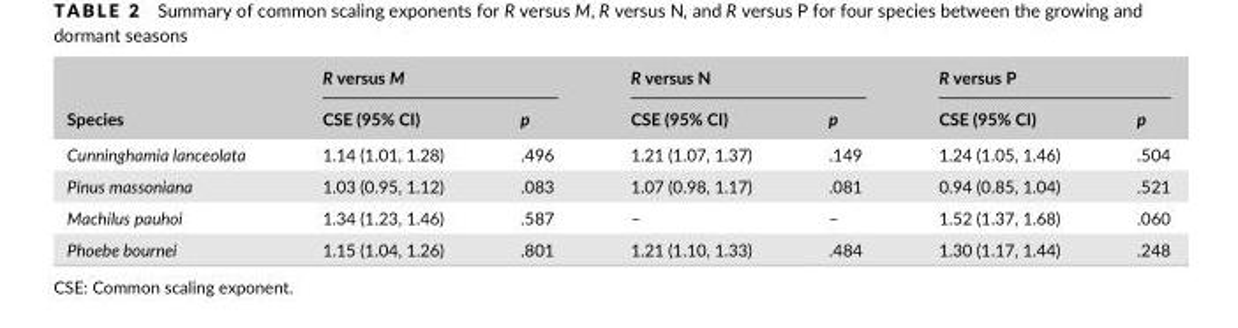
<table><thead><tr><td rowspan="2">Species</td><td colspan="2">R versus M</td><td colspan="2">R versus N</td><td colspan="2">R versus P</td></tr><tr><td>CSE (95% CI)</td><td>p</td><td>CSE (95% CI)</td><td>p</td><td>CSE (95% CI)</td><td>p</td></tr></thead><tbody><tr><td>Cunninghamia lanceolata</td><td>1.14 (1.01, 1.28)</td><td>.496</td><td>1.21 (1.07, 1.37)</td><td>.149</td><td>1.24 (1.05, 1.46)</td><td>.504</td></tr><tr><td>Pinus massoniana</td><td>1.03 (0.95, 1.12)</td><td>.083</td><td>1.07 (0.98, 1.17)</td><td>.081</td><td>0.94 (0.85, 1.04)</td><td>.521</td></tr><tr><td>Machilus pauhoi</td><td>1.34 (1.23, 1.46)</td><td>.587</td><td>–</td><td>–</td><td>1.52 (1.37, 1.68)</td><td>.060</td></tr><tr><td>Phoebe bournei</td><td>1.15 (1.04, 1.26)</td><td>.801</td><td>1.21 (1.10, 1.33)</td><td>.484</td><td>1.30 (1.17, 1.44)</td><td>.248</td></tr></tbody></table>